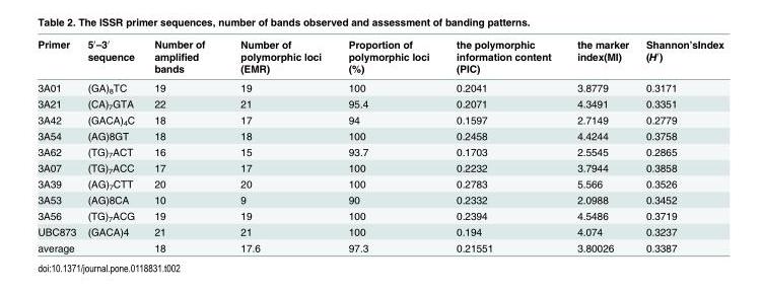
<table><thead><tr><td>Primer</td><td>5′–3′ sequence</td><td>Number of amplified bands</td><td>Number of polymorphic loci (EMR)</td><td>Proportion of polymorphic loci (%)</td><td>the polymorphic information content (PIC)</td><td>the marker index(MI)</td><td>Shannon’sIndex (H′)</td></tr></thead><tbody><tr><td>3A01</td><td>(GA)<sub>8</sub>TC</td><td>19</td><td>19</td><td>100</td><td>0.2041</td><td>3.8779</td><td>0.3171</td></tr><tr><td>3A21</td><td>(CA)<sub>7</sub>GTA</td><td>22</td><td>21</td><td>95.4</td><td>0.2071</td><td>4.3491</td><td>0.3351</td></tr><tr><td>3A42</td><td>(GACA)<sub>4</sub>C</td><td>18</td><td>17</td><td>94</td><td>0.1597</td><td>2.7149</td><td>0.2779</td></tr><tr><td>3A54</td><td>(AG)8GT</td><td>18</td><td>18</td><td>100</td><td>0.2458</td><td>4.4244</td><td>0.3758</td></tr><tr><td>3A62</td><td>(TG)<sub>7</sub>ACT</td><td>16</td><td>15</td><td>93.7</td><td>0.1703</td><td>2.5545</td><td>0.2865</td></tr><tr><td>3A07</td><td>(TG)<sub>7</sub>ACC</td><td>17</td><td>17</td><td>100</td><td>0.2232</td><td>3.7944</td><td>0.3858</td></tr><tr><td>3A39</td><td>(AG)<sub>7</sub>CTT</td><td>20</td><td>20</td><td>100</td><td>0.2783</td><td>5.566</td><td>0.3526</td></tr><tr><td>3A53</td><td>(AG)8CA</td><td>10</td><td>9</td><td>90</td><td>0.2332</td><td>2.0988</td><td>0.3452</td></tr><tr><td>3A56</td><td>(TG)<sub>7</sub>ACG</td><td>19</td><td>19</td><td>100</td><td>0.2394</td><td>4.5486</td><td>0.3719</td></tr><tr><td>UBC873</td><td>(GACA)4</td><td>21</td><td>21</td><td>100</td><td>0.194</td><td>4.074</td><td>0.3237</td></tr><tr><td>average</td><td></td><td>18</td><td>17.6</td><td>97.3</td><td>0.21551</td><td>3.80026</td><td>0.3387</td></tr></tbody></table>